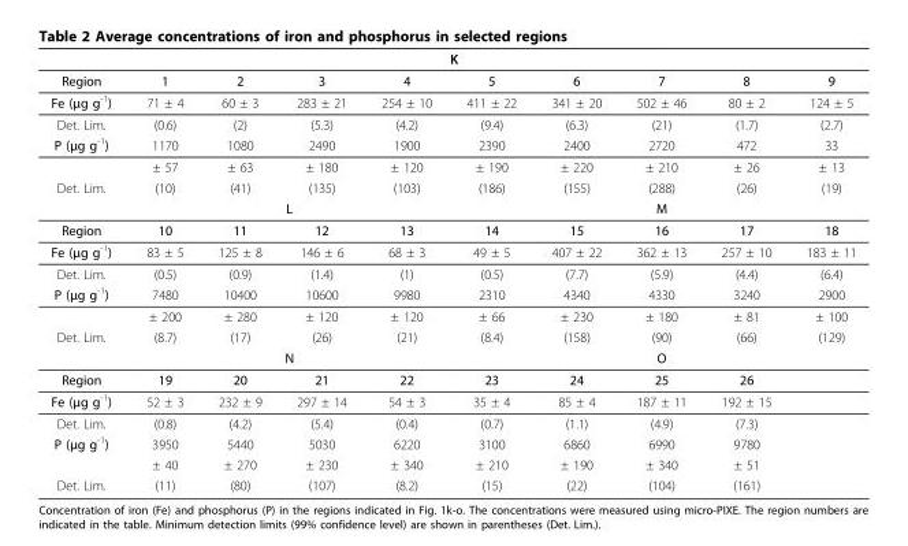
<table><thead><tr><td colspan="10">K</td></tr><tr><td>Region</td><td>1</td><td>2</td><td>3</td><td>4</td><td>5</td><td>6</td><td>7</td><td>8</td><td>9</td></tr></thead><tbody><tr><td>Fe (μg g<sup>-1</sup>)</td><td>71 ± 4</td><td>60 ± 3</td><td>283 ± 21</td><td>254 ± 10</td><td>411 ± 22</td><td>341 ± 20</td><td>502 ± 46</td><td>80 ± 2</td><td>124 ± 5</td></tr><tr><td>Det. Lim.</td><td>(0.6)</td><td>(2)</td><td>(5.3)</td><td>(4.2)</td><td>(9.4)</td><td>(6.3)</td><td>(21)</td><td>(1.7)</td><td>(2.7)</td></tr><tr><td rowspan="2">P (μg g<sup>-1</sup>)</td><td>1170</td><td>1080</td><td>2490</td><td>1900</td><td>2390</td><td>2400</td><td>2720</td><td>472</td><td>33</td></tr><tr><td>± 57</td><td>± 63</td><td>± 180</td><td>± 120</td><td>± 190</td><td>± 220</td><td>± 210</td><td>± 26</td><td>± 13</td></tr><tr><td rowspan="2">Det. Lim.</td><td>(10)</td><td>(41)</td><td>(135)</td><td>(103)</td><td>(186)</td><td>(155)</td><td>(288)</td><td>(26)</td><td>(19)</td></tr><tr><td colspan="4">L</td><td colspan="5">M</td></tr><tr><td>Region</td><td>10</td><td>11</td><td>12</td><td>13</td><td>14</td><td>15</td><td>16</td><td>17</td><td>18</td></tr><tr><td>Fe (μg g<sup>-1</sup>)</td><td>83 ± 5</td><td>125 ± 8</td><td>146 ± 6</td><td>68 ± 3</td><td>49 ± 5</td><td>407 ± 22</td><td>362 ± 13</td><td>257 ± 10</td><td>183 ± 11</td></tr><tr><td>Det. Lim.</td><td>(0.5)</td><td>(0.9)</td><td>(1.4)</td><td>(1)</td><td>(0.5)</td><td>(7.7)</td><td>(5.9)</td><td>(4.4)</td><td>(6.4)</td></tr><tr><td rowspan="2">P (μg g<sup>-1</sup>)</td><td>7480</td><td>10400</td><td>10600</td><td>9980</td><td>2310</td><td>4340</td><td>4330</td><td>3240</td><td>2900</td></tr><tr><td>± 200</td><td>± 280</td><td>± 120</td><td>± 120</td><td>± 66</td><td>± 230</td><td>± 180</td><td>± 81</td><td>± 100</td></tr><tr><td rowspan="2">Det. Lim.</td><td>(8.7)</td><td>(17)</td><td>(26)</td><td>(21)</td><td>(8.4)</td><td>(158)</td><td>(90)</td><td>(66)</td><td>(129)</td></tr><tr><td colspan="4">N</td><td colspan="5">O</td></tr><tr><td>Region</td><td>19</td><td>20</td><td>21</td><td>22</td><td>23</td><td>24</td><td>25</td><td>26</td><td></td></tr><tr><td>Fe (μg g<sup>-1</sup>)</td><td>52 ± 3</td><td>232 ± 9</td><td>297 ± 14</td><td>54 ± 3</td><td>35 ± 4</td><td>85 ± 4</td><td>187 ± 11</td><td>192 ± 15</td><td></td></tr><tr><td>Det. Lim.</td><td>(0.8)</td><td>(4.2)</td><td>(5.4)</td><td>(0.4)</td><td>(0.7)</td><td>(1.1)</td><td>(4.9)</td><td>(7.3)</td><td></td></tr><tr><td rowspan="2">P (μg g<sup>-1</sup>)</td><td>3950</td><td>5440</td><td>5030</td><td>6220</td><td>3100</td><td>6860</td><td>6990</td><td>9780</td><td></td></tr><tr><td>± 40</td><td>± 270</td><td>± 230</td><td>± 340</td><td>± 210</td><td>± 190</td><td>± 340</td><td>± 51</td><td></td></tr><tr><td>Det. Lim.</td><td>(11)</td><td>(80)</td><td>(107)</td><td>(8.2)</td><td>(15)</td><td>(22)</td><td>(104)</td><td>(161)</td><td></td></tr></tbody></table>